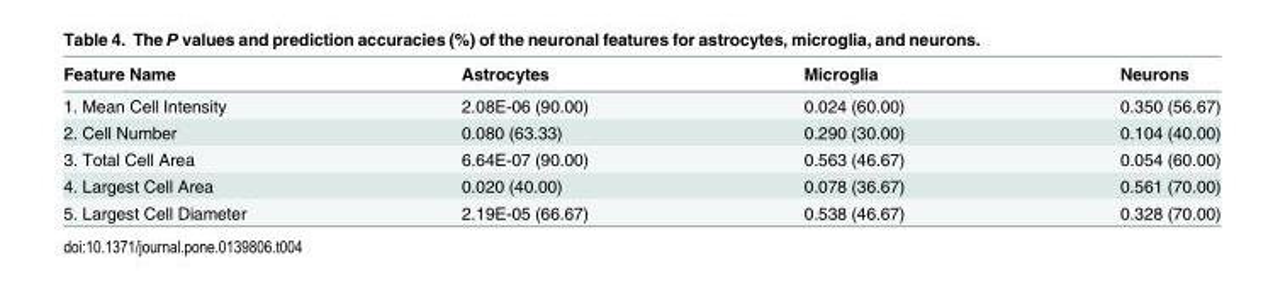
<table><thead><tr><td>Feature Name</td><td>Astrocytes</td><td>Microglia</td><td>Neurons</td></tr></thead><tbody><tr><td>1. Mean Cell Intensity</td><td>2.08E-06 (90.00)</td><td>0.024 (60.00)</td><td>0.350 (56.67)</td></tr><tr><td>2. Cell Number</td><td>0.080 (63.33)</td><td>0.290 (30.00)</td><td>0.104 (40.00)</td></tr><tr><td>3. Total Cell Area</td><td>6.64E-07 (90.00)</td><td>0.563 (46.67)</td><td>0.054 (60.00)</td></tr><tr><td>4. Largest Cell Area</td><td>0.020 (40.00)</td><td>0.078 (36.67)</td><td>0.561 (70.00)</td></tr><tr><td>5. Largest Cell Diameter</td><td>2.19E-05 (66.67)</td><td>0.538 (46.67)</td><td>0.328 (70.00)</td></tr></tbody></table>